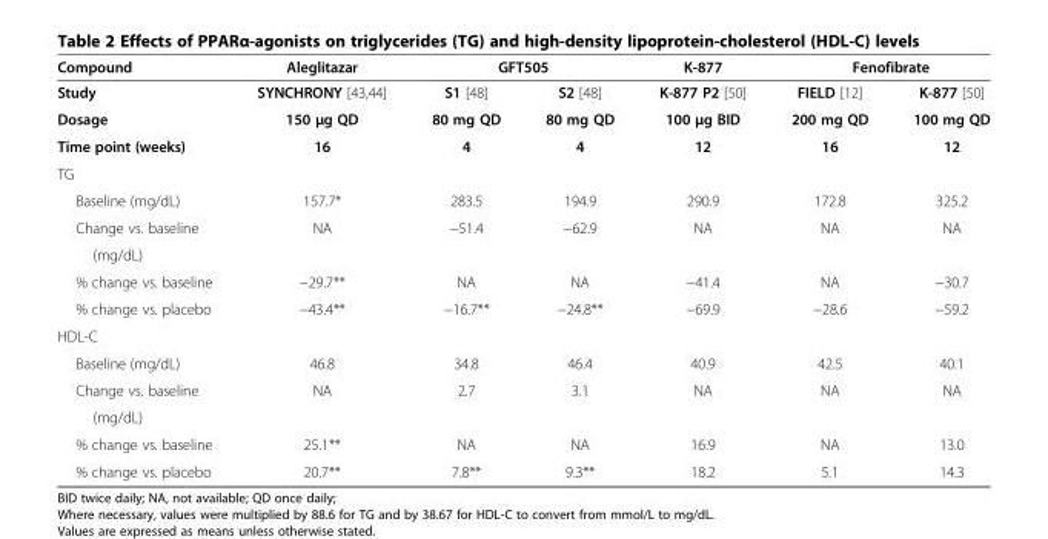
<table><thead><tr><td rowspan="2">Compound Study</td><td rowspan="2">Aleglitazar SYNCHRONY [43,44]</td><td colspan="2">GFT505</td><td rowspan="2">K-877 K-877 P2 [50]</td><td colspan="2">Fenofibrate</td></tr><tr><td>S1 [48]</td><td>S2 [48]</td><td>FIELD [12]</td><td>K-877 [50]</td></tr></thead><tbody><tr><td>Dosage</td><td>150 μg QD</td><td>80 mg QD</td><td>80 mg QD</td><td>100 μg BID</td><td>200 mg QD</td><td>100 mg QD</td></tr><tr><td>Time point (weeks)</td><td>16</td><td>4</td><td>4</td><td>12</td><td>16</td><td>12</td></tr><tr><td colspan="7">TG</td></tr><tr><td>Baseline (mg/dL)</td><td>157.7*</td><td>283.5</td><td>194.9</td><td>290.9</td><td>172.8</td><td>325.2</td></tr><tr><td>Change vs. baseline</td><td>NA</td><td>−51.4</td><td>−62.9</td><td>NA</td><td>NA</td><td>NA</td></tr><tr><td colspan="7">(mg/dL)</td></tr><tr><td>% change vs. baseline</td><td>−29.7**</td><td>NA</td><td>NA</td><td>−41.4</td><td>NA</td><td>−30.7</td></tr><tr><td>% change vs. placebo</td><td>−43.4**</td><td>−16.7**</td><td>−24.8**</td><td>−69.9</td><td>−28.6</td><td>−59.2</td></tr><tr><td colspan="7">HDL-C</td></tr><tr><td>Baseline (mg/dL)</td><td>46.8</td><td>34.8</td><td>46.4</td><td>40.9</td><td>42.5</td><td>40.1</td></tr><tr><td>Change vs. baseline</td><td>NA</td><td>2.7</td><td>3.1</td><td>NA</td><td>NA</td><td>NA</td></tr><tr><td colspan="7">(mg/dL)</td></tr><tr><td>% change vs. baseline</td><td>25.1**</td><td>NA</td><td>NA</td><td>16.9</td><td>NA</td><td>13.0</td></tr><tr><td>% change vs. placebo</td><td>20.7**</td><td>7.8**</td><td>9.3**</td><td>18.2</td><td>5.1</td><td>14.3</td></tr></tbody></table>